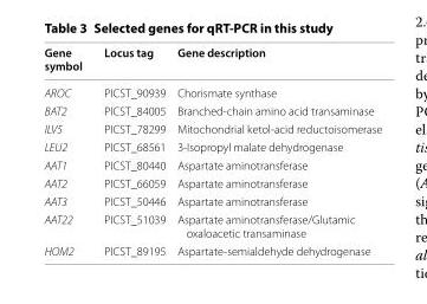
<table><thead><tr><td>Gene symbol</td><td>Locus tag</td><td>Gene description</td></tr></thead><tbody><tr><td>AROC</td><td>PICST_90939</td><td>Chorismate synthase</td></tr><tr><td>BAT2</td><td>PICST_84005</td><td>Branched-chain amino acid transaminase</td></tr><tr><td>ILV5</td><td>PICST_78299</td><td>Mitochondrial ketol-acid reductoisomerase</td></tr><tr><td>LEU2</td><td>PICST_68561</td><td>3-Isopropyl malate dehydrogenase</td></tr><tr><td>AAT1</td><td>PICST_80440</td><td>Aspartate aminotransferase</td></tr><tr><td>AAT2</td><td>PICST_66059</td><td>Aspartate aminotransferase</td></tr><tr><td>AAT3</td><td>PICST_50446</td><td>Aspartate aminotransferase</td></tr><tr><td>AAT22</td><td>PICST_51039</td><td>Aspartate aminotransferase/Glutamic oxaloacetic transaminase</td></tr><tr><td>HOM2</td><td>PICST_89195</td><td>Aspartate-semialdehyde dehydrogenase</td></tr></tbody></table>